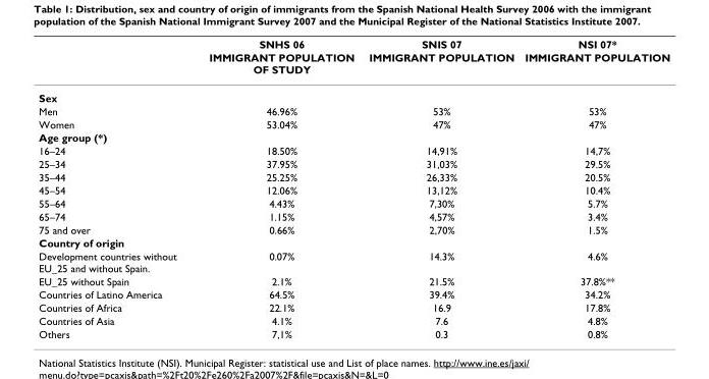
<table><thead><tr><td rowspan="2"></td><td rowspan="2">SNHS 06 IMMIGRANT POPULATION OF STUDY</td><td rowspan="2">SNIS 07 IMMIGRANT POPULATION</td><td rowspan="2">NSI 07* IMMIGRANT POPULATION</td></tr><tr></tr></thead><tbody><tr><td colspan="4">Sex</td></tr><tr><td>Men</td><td>46.96%</td><td>53%</td><td>53%</td></tr><tr><td>Women</td><td>53.04%</td><td>47%</td><td>47%</td></tr><tr><td colspan="4">Age group (*)</td></tr><tr><td>16–24</td><td>18.50%</td><td>14,91%</td><td>14,7%</td></tr><tr><td>25–34</td><td>37.95%</td><td>31,03%</td><td>29.5%</td></tr><tr><td>35–44</td><td>25.25%</td><td>26,33%</td><td>20.5%</td></tr><tr><td>45–54</td><td>12.06%</td><td>13,12%</td><td>10.4%</td></tr><tr><td>55–64</td><td>4.43%</td><td>7,30%</td><td>5.7%</td></tr><tr><td>65–74</td><td>1.15%</td><td>4,57%</td><td>3.4%</td></tr><tr><td>75 and over</td><td>0.66%</td><td>2,70%</td><td>1.5%</td></tr><tr><td colspan="4">Country of origin</td></tr><tr><td>Development countries without EU_25 and without Spain.</td><td>0.07%</td><td>14.3%</td><td>4.6%</td></tr><tr><td>EU_25 without Spain</td><td>2.1%</td><td>21.5%</td><td>37.8%**</td></tr><tr><td>Countries of Latino America</td><td>64.5%</td><td>39.4%</td><td>34.2%</td></tr><tr><td>Countries of Africa</td><td>22.1%</td><td>16.9</td><td>17.8%</td></tr><tr><td>Countries of Asia</td><td>4.1%</td><td>7.6</td><td>4.8%</td></tr><tr><td>Others</td><td>7,1%</td><td>0.3</td><td>0.8%</td></tr></tbody></table>